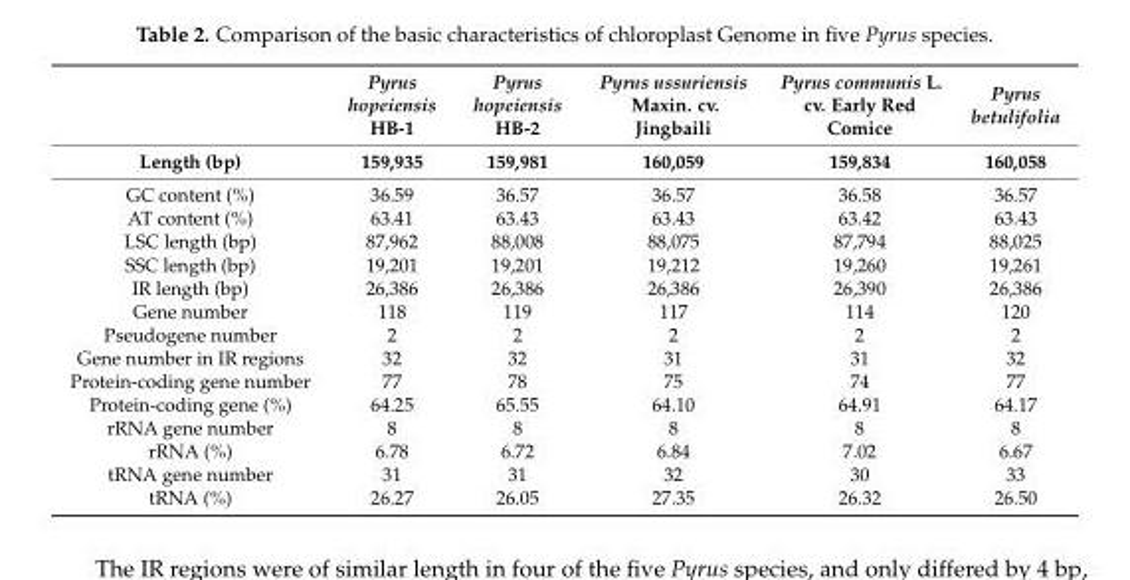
<table><thead><tr><td rowspan="2">Length (bp)</td><td rowspan="2">Pyrus hopeiensis HB-1 159,935</td><td rowspan="2">Pyrus hopeiensis HB-2 159,981</td><td rowspan="2">Pyrus ussuriensis Maxin. cv. Jingbaili 160,059</td><td rowspan="2">Pyrus communis L. cv. Early Red Comice 159,834</td><td rowspan="2">Pyrus betulifolia 160,058</td></tr><tr></tr></thead><tbody><tr><td>GC content (%)</td><td>36.59</td><td>36.57</td><td>36.57</td><td>36.58</td><td>36.57</td></tr><tr><td>AT content (%)</td><td>63.41</td><td>63.43</td><td>63.43</td><td>63.42</td><td>63.43</td></tr><tr><td>LSC length (bp)</td><td>87,962</td><td>88,008</td><td>88,075</td><td>87,794</td><td>88,025</td></tr><tr><td>SSC length (bp)</td><td>19,201</td><td>19,201</td><td>19,212</td><td>19,260</td><td>19,261</td></tr><tr><td>IR length (bp)</td><td>26,386</td><td>26,386</td><td>26,386</td><td>26,390</td><td>26,386</td></tr><tr><td>Gene number</td><td>118</td><td>119</td><td>117</td><td>114</td><td>120</td></tr><tr><td>Pseudogene number</td><td>2</td><td>2</td><td>2</td><td>2</td><td>2</td></tr><tr><td>Gene number in IR regions</td><td>32</td><td>32</td><td>31</td><td>31</td><td>32</td></tr><tr><td>Protein-coding gene number</td><td>77</td><td>78</td><td>75</td><td>74</td><td>77</td></tr><tr><td>Protein-coding gene (%)</td><td>64.25</td><td>65.55</td><td>64.10</td><td>64.91</td><td>64.17</td></tr><tr><td>rRNA gene number</td><td>8</td><td>8</td><td>8</td><td>8</td><td>8</td></tr><tr><td>rRNA (%)</td><td>6.78</td><td>6.72</td><td>6.84</td><td>7.02</td><td>6.67</td></tr><tr><td>tRNA gene number</td><td>31</td><td>31</td><td>32</td><td>30</td><td>33</td></tr><tr><td>tRNA (%)</td><td>26.27</td><td>26.05</td><td>27.35</td><td>26.32</td><td>26.50</td></tr></tbody></table>